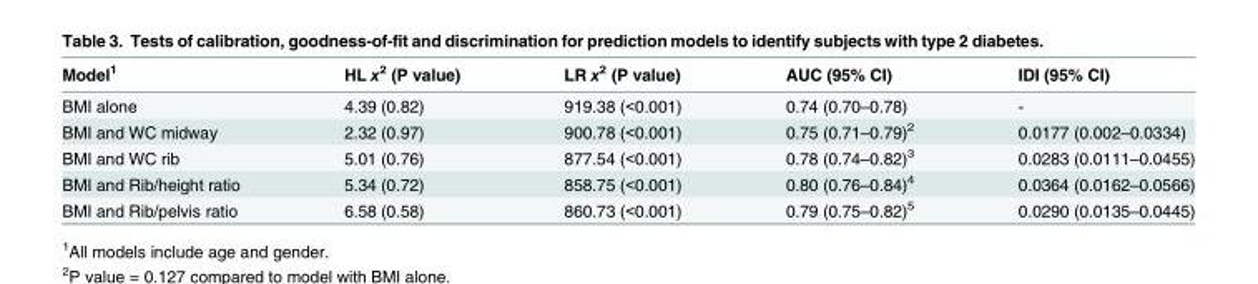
<table><thead><tr><td>Model<sup>1</sup></td><td>HL x<sup>2</sup> (P value)</td><td>LR x<sup>2</sup> (P value)</td><td>AUC (95% CI)</td><td>IDI (95% CI)</td></tr></thead><tbody><tr><td>BMI alone</td><td>4.39 (0.82)</td><td>919.38 (&lt;0.001)</td><td>0.74 (0.70–0.78)</td><td>-</td></tr><tr><td>BMI and WC midway</td><td>2.32 (0.97)</td><td>900.78 (&lt;0.001)</td><td>0.75 (0.71–0.79)<sup>2</sup></td><td>0.0177 (0.002–0.0334)</td></tr><tr><td>BMI and WC rib</td><td>5.01 (0.76)</td><td>877.54 (&lt;0.001)</td><td>0.78 (0.74–0.82)<sup>3</sup></td><td>0.0283 (0.0111–0.0455)</td></tr><tr><td>BMI and Rib/height ratio</td><td>5.34 (0.72)</td><td>858.75 (&lt;0.001)</td><td>0.80 (0.76–0.84)<sup>4</sup></td><td>0.0364 (0.0162–0.0566)</td></tr><tr><td>BMI and Rib/pelvis ratio</td><td>6.58 (0.58)</td><td>860.73 (&lt;0.001)</td><td>0.79 (0.75–0.82)<sup>5</sup></td><td>0.0290 (0.0135–0.0445)</td></tr></tbody></table>